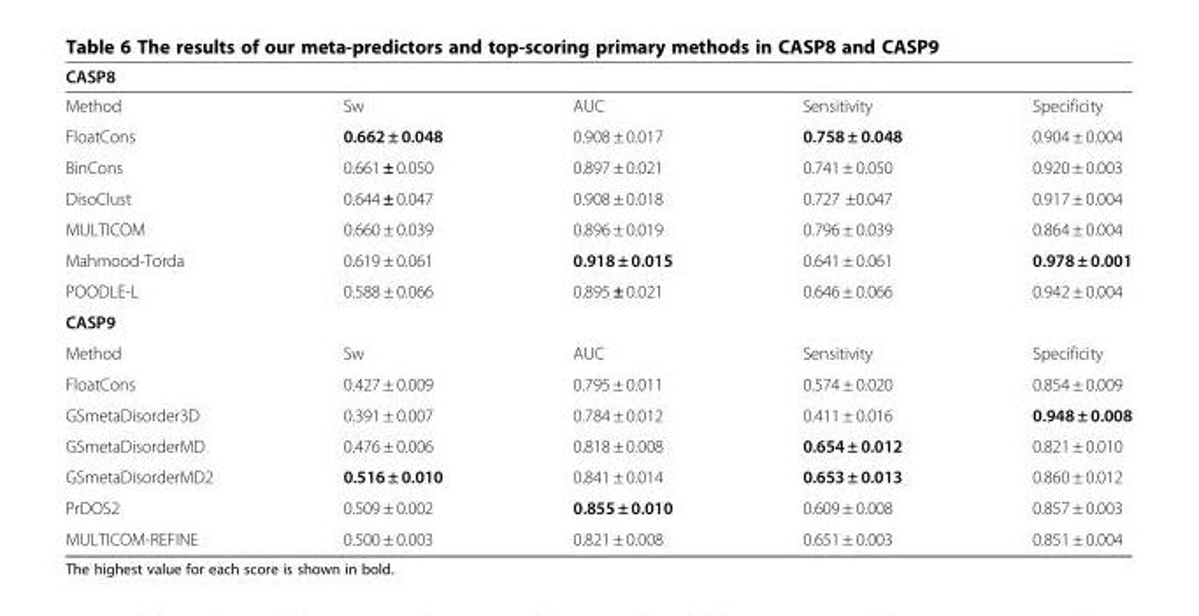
<table><thead><tr><td colspan="5">CASP8</td></tr><tr><td>Method</td><td>Sw</td><td>AUC</td><td>Sensitivity</td><td>Specificity</td></tr></thead><tbody><tr><td>FloatCons</td><td>0.662 ± 0.048</td><td>0.908 ± 0.017</td><td>0.758 ± 0.048</td><td>0.904 ± 0.004</td></tr><tr><td>BinCons</td><td>0.661 ± 0.050</td><td>0.897 ± 0.021</td><td>0.741 ± 0.050</td><td>0.920 ± 0.003</td></tr><tr><td>DisoClust</td><td>0.644 ± 0.047</td><td>0.908 ± 0.018</td><td>0.727 ±0.047</td><td>0.917 ± 0.004</td></tr><tr><td>MULTICOM</td><td>0.660 ± 0.039</td><td>0.896 ± 0.019</td><td>0.796 ± 0.039</td><td>0.864 ± 0.004</td></tr><tr><td>Mahmood-Torda</td><td>0.619 ± 0.061</td><td>0.918 ± 0.015</td><td>0.641 ± 0.061</td><td>0.978 ± 0.001</td></tr><tr><td>POODLE-L</td><td>0.588 ± 0.066</td><td>0.895 ± 0.021</td><td>0.646 ± 0.066</td><td>0.942 ± 0.004</td></tr><tr><td colspan="5">CASP9</td></tr><tr><td>Method</td><td>Sw</td><td>AUC</td><td>Sensitivity</td><td>Specificity</td></tr><tr><td>FloatCons</td><td>0.427 ± 0.009</td><td>0.795 ± 0.011</td><td>0.574 ± 0.020</td><td>0.854 ± 0.009</td></tr><tr><td>GSmetaDisorder3D</td><td>0.391 ± 0.007</td><td>0.784 ± 0.012</td><td>0.411 ± 0.016</td><td>0.948 ± 0.008</td></tr><tr><td>GSmetaDisorderMD</td><td>0.476 ± 0.006</td><td>0.818 ± 0.008</td><td>0.654 ± 0.012</td><td>0.821 ± 0.010</td></tr><tr><td>GSmetaDisorderMD2</td><td>0.516 ± 0.010</td><td>0.841 ± 0.014</td><td>0.653 ± 0.013</td><td>0.860 ± 0.012</td></tr><tr><td>PrDOS2</td><td>0.509 ± 0.002</td><td>0.855 ± 0.010</td><td>0.609 ± 0.008</td><td>0.857 ± 0.003</td></tr><tr><td>MULTICOM-REFINE</td><td>0.500 ± 0.003</td><td>0.821 ± 0.008</td><td>0.651 ± 0.003</td><td>0.851 ± 0.004</td></tr></tbody></table>